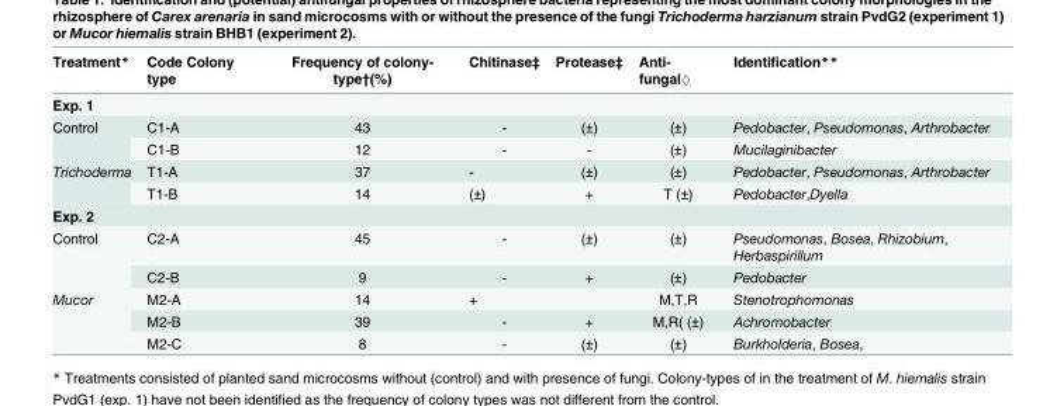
<table><thead><tr><td>Treatment*</td><td>Code Colony type</td><td>Frequency of colony- type†(%)</td><td>Chitinase‡</td><td>Protease‡</td><td>Anti- fungal◊</td><td>Identification**</td></tr></thead><tbody><tr><td colspan="7">Exp. 1</td></tr><tr><td rowspan="2">Control</td><td>C1-A</td><td>43</td><td>-</td><td>(±)</td><td>(±)</td><td>Pedobacter, Pseudomonas, Arthrobacter</td></tr><tr><td>C1-B</td><td>12</td><td>-</td><td>-</td><td>(±)</td><td>Mucilaginibacter</td></tr><tr><td rowspan="2">Trichoderma</td><td>T1-A</td><td>37</td><td>-</td><td>(±)</td><td>(±)</td><td>Pedobacter, Pseudomonas, Arthrobacter</td></tr><tr><td>T1-B</td><td>14</td><td>(±)</td><td>+</td><td>T (±)</td><td>Pedobacter,Dyella</td></tr><tr><td colspan="7">Exp. 2</td></tr><tr><td rowspan="2">Control</td><td>C2-A</td><td>45</td><td>-</td><td>(±)</td><td>(±)</td><td>Pseudomonas, Bosea, Rhizobium, Herbaspirillum</td></tr><tr><td>C2-B</td><td>9</td><td>-</td><td>+</td><td>(±)</td><td>Pedobacter</td></tr><tr><td rowspan="3">Mucor</td><td>M2-A</td><td>14</td><td>+</td><td></td><td>M,T,R</td><td>Stenotrophomonas</td></tr><tr><td>M2-B</td><td>39</td><td>-</td><td>+</td><td>M,R( (±)</td><td>Achromobacter</td></tr><tr><td>M2-C</td><td>8</td><td>-</td><td>(±)</td><td>(±)</td><td>Burkholderia, Bosea,</td></tr></tbody></table>